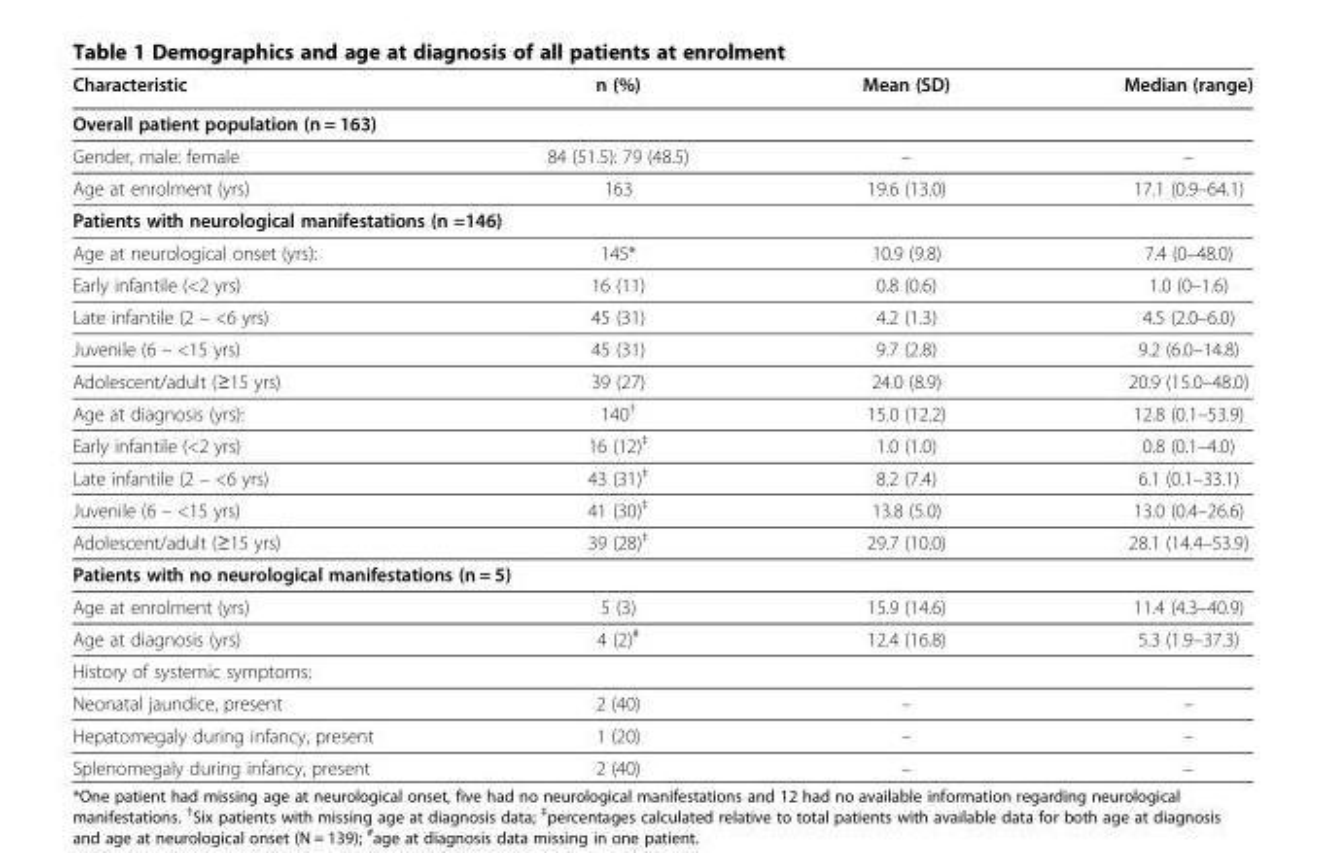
<table><thead><tr><td>Characteristic</td><td>n (%)</td><td>Mean (SD)</td><td>Median (range)</td></tr></thead><tbody><tr><td colspan="4">Overall patient population (n = 163)</td></tr><tr><td>Gender, male: female</td><td>84 (51.5): 79 (48.5)</td><td>–</td><td>–</td></tr><tr><td>Age at enrolment (yrs)</td><td>163</td><td>19.6 (13.0)</td><td>17.1 (0.9–64.1)</td></tr><tr><td colspan="4">Patients with neurological manifestations (n =146)</td></tr><tr><td>Age at neurological onset (yrs):</td><td>145*</td><td>10.9 (9.8)</td><td>7.4 (0–48.0)</td></tr><tr><td>Early infantile (&lt;2 yrs)</td><td>16 (11)</td><td>0.8 (0.6)</td><td>1.0 (0–1.6)</td></tr><tr><td>Late infantile (2 – &lt;6 yrs)</td><td>45 (31)</td><td>4.2 (1.3)</td><td>4.5 (2.0–6.0)</td></tr><tr><td>Juvenile (6 – &lt;15 yrs)</td><td>45 (31)</td><td>9.7 (2.8)</td><td>9.2 (6.0–14.8)</td></tr><tr><td>Adolescent/adult (≥15 yrs)</td><td>39 (27)</td><td>24.0 (8.9)</td><td>20.9 (15.0–48.0)</td></tr><tr><td>Age at diagnosis (yrs):</td><td>140<sup>†</sup></td><td>15.0 (12.2)</td><td>12.8 (0.1–53.9)</td></tr><tr><td>Early infantile (&lt;2 yrs)</td><td>16 (12)<sup>‡</sup></td><td>1.0 (1.0)</td><td>0.8 (0.1–4.0)</td></tr><tr><td>Late infantile (2 – &lt;6 yrs)</td><td>43 (31)<sup>‡</sup></td><td>8.2 (7.4)</td><td>6.1 (0.1–33.1)</td></tr><tr><td>Juvenile (6 – &lt;15 yrs)</td><td>41 (30)<sup>‡</sup></td><td>13.8 (5.0)</td><td>13.0 (0.4–26.6)</td></tr><tr><td>Adolescent/adult (≥15 yrs)</td><td>39 (28)<sup>‡</sup></td><td>29.7 (10.0)</td><td>28.1 (14.4–53.9)</td></tr><tr><td colspan="4">Patients with no neurological manifestations (n = 5)</td></tr><tr><td>Age at enrolment (yrs)</td><td>5 (3)</td><td>15.9 (14.6)</td><td>11.4 (4.3–40.9)</td></tr><tr><td>Age at diagnosis (yrs)</td><td>4 (2)<sup>#</sup></td><td>12.4 (16.8)</td><td>5.3 (1.9–37.3)</td></tr><tr><td colspan="4">History of systemic symptoms:</td></tr><tr><td>Neonatal jaundice, present</td><td>2 (40)</td><td>–</td><td>–</td></tr><tr><td>Hepatomegaly during infancy, present</td><td>1 (20)</td><td>–</td><td>–</td></tr><tr><td>Splenomegaly during infancy, present</td><td>2 (40)</td><td>–</td><td>–</td></tr></tbody></table>